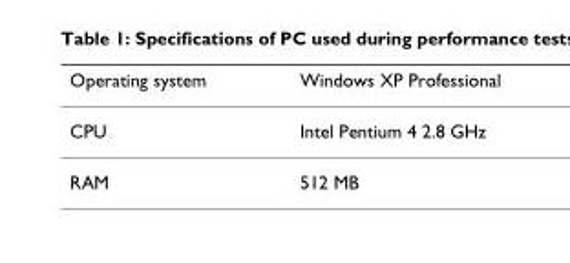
<table><thead><tr><td>Operating system</td><td>Windows XP Professional</td></tr></thead><tbody><tr><td>CPU</td><td>Intel Pentium 4 2.8 GHz</td></tr><tr><td>RAM</td><td>512 MB</td></tr></tbody></table>